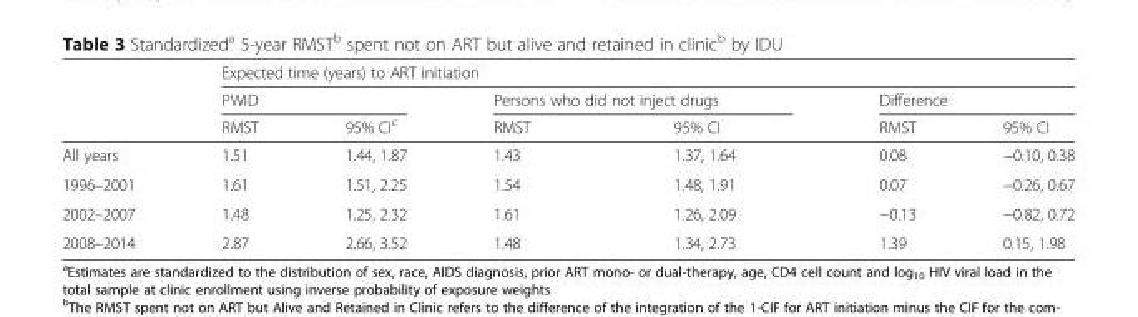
<table><thead><tr><td rowspan="3"></td><td colspan="6">Expected time (years) to ART initiation</td></tr><tr><td colspan="2">PWID</td><td colspan="2">Persons who did not inject drugs</td><td colspan="2">Difference</td></tr><tr><td>RMST</td><td>95% CI<sup>c</sup></td><td>RMST</td><td>95% CI</td><td>RMST</td><td>95% CI</td></tr></thead><tbody><tr><td>All years</td><td>1.51</td><td>1.44, 1.87</td><td>1.43</td><td>1.37, 1.64</td><td>0.08</td><td>−0.10, 0.38</td></tr><tr><td>1996–2001</td><td>1.61</td><td>1.51, 2.25</td><td>1.54</td><td>1.48, 1.91</td><td>0.07</td><td>−0.26, 0.67</td></tr><tr><td>2002–2007</td><td>1.48</td><td>1.25, 2.32</td><td>1.61</td><td>1.26, 2.09</td><td>−0.13</td><td>−0.82, 0.72</td></tr><tr><td>2008–2014</td><td>2.87</td><td>2.66, 3.52</td><td>1.48</td><td>1.34, 2.73</td><td>1.39</td><td>0.15, 1.98</td></tr></tbody></table>